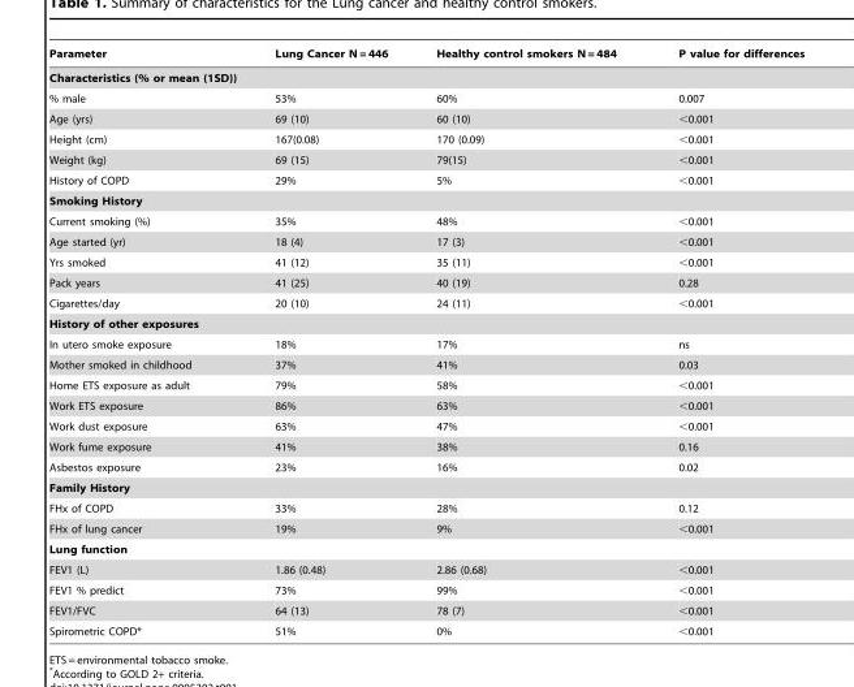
<table><thead><tr><td>Parameter</td><td>Lung Cancer N = 446</td><td>Healthy control smokers N = 484</td><td>P value for differences</td></tr></thead><tbody><tr><td colspan="4">Characteristics (% or mean (1SD))</td></tr><tr><td>% male</td><td>53%</td><td>60%</td><td>0.007</td></tr><tr><td>Age (yrs)</td><td>69 (10)</td><td>60 (10)</td><td>&lt;0.001</td></tr><tr><td>Height (cm)</td><td>167(0.08)</td><td>170 (0.09)</td><td>&lt;0.001</td></tr><tr><td>Weight (kg)</td><td>69 (15)</td><td>79(15)</td><td>&lt;0.001</td></tr><tr><td>History of COPD</td><td>29%</td><td>5%</td><td>&lt;0.001</td></tr><tr><td colspan="4">Smoking History</td></tr><tr><td>Current smoking (%)</td><td>35%</td><td>48%</td><td>&lt;0.001</td></tr><tr><td>Age started (yr)</td><td>18 (4)</td><td>17 (3)</td><td>&lt;0.001</td></tr><tr><td>Yrs smoked</td><td>41 (12)</td><td>35 (11)</td><td>&lt;0.001</td></tr><tr><td>Pack years</td><td>41 (25)</td><td>40 (19)</td><td>0.28</td></tr><tr><td>Cigarettes/day</td><td>20 (10)</td><td>24 (11)</td><td>&lt;0.001</td></tr><tr><td colspan="4">History of other exposures</td></tr><tr><td>In utero smoke exposure</td><td>18%</td><td>17%</td><td>ns</td></tr><tr><td>Mother smoked in childhood</td><td>37%</td><td>41%</td><td>0.03</td></tr><tr><td>Home ETS exposure as adult</td><td>79%</td><td>58%</td><td>&lt;0.001</td></tr><tr><td>Work ETS exposure</td><td>86%</td><td>63%</td><td>&lt;0.001</td></tr><tr><td>Work dust exposure</td><td>63%</td><td>47%</td><td>&lt;0.001</td></tr><tr><td>Work fume exposure</td><td>41%</td><td>38%</td><td>0.16</td></tr><tr><td>Asbestos exposure</td><td>23%</td><td>16%</td><td>0.02</td></tr><tr><td colspan="4">Family History</td></tr><tr><td>FHx of COPD</td><td>33%</td><td>28%</td><td>0.12</td></tr><tr><td>FHx of lung cancer</td><td>19%</td><td>9%</td><td>&lt;0.001</td></tr><tr><td colspan="4">Lung function</td></tr><tr><td>FEV1 (L)</td><td>1.86 (0.48)</td><td>2.86 (0.68)</td><td>&lt;0.001</td></tr><tr><td>FEV1 % predict</td><td>73%</td><td>99%</td><td>&lt;0.001</td></tr><tr><td>FEV1/FVC</td><td>64 (13)</td><td>78 (7)</td><td>&lt;0.001</td></tr><tr><td>Spirometric COPD*</td><td>51%</td><td>0%</td><td>&lt;0.001</td></tr></tbody></table>